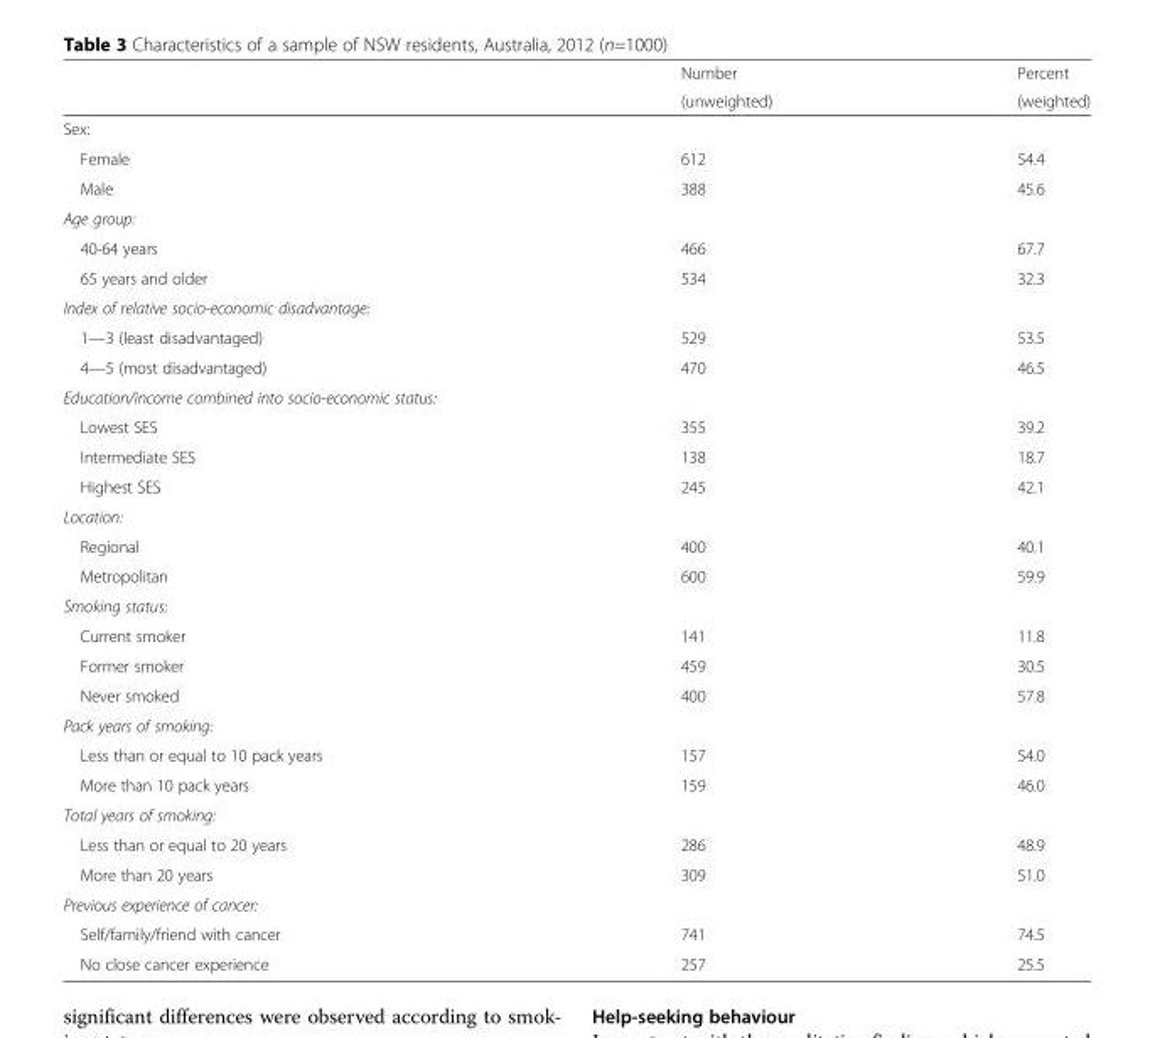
<table><thead><tr><td rowspan="2"></td><td rowspan="2">Number (unweighted)</td><td rowspan="2">Percent (weighted)</td></tr><tr></tr></thead><tbody><tr><td colspan="3">Sex:</td></tr><tr><td>Female</td><td>612</td><td>54.4</td></tr><tr><td>Male</td><td>388</td><td>45.6</td></tr><tr><td colspan="3">Age group:</td></tr><tr><td>40-64 years</td><td>466</td><td>67.7</td></tr><tr><td>65 years and older</td><td>534</td><td>32.3</td></tr><tr><td colspan="3">Index of relative socio-economic disadvantage:</td></tr><tr><td>1—3 (least disadvantaged)</td><td>529</td><td>53.5</td></tr><tr><td>4—5 (most disadvantaged)</td><td>470</td><td>46.5</td></tr><tr><td colspan="3">Education/income combined into socio-economic status:</td></tr><tr><td>Lowest SES</td><td>355</td><td>39.2</td></tr><tr><td>Intermediate SES</td><td>138</td><td>18.7</td></tr><tr><td>Highest SES</td><td>245</td><td>42.1</td></tr><tr><td colspan="3">Location:</td></tr><tr><td>Regional</td><td>400</td><td>40.1</td></tr><tr><td>Metropolitan</td><td>600</td><td>59.9</td></tr><tr><td colspan="3">Smoking status:</td></tr><tr><td>Current smoker</td><td>141</td><td>11.8</td></tr><tr><td>Former smoker</td><td>459</td><td>30.5</td></tr><tr><td>Never smoked</td><td>400</td><td>57.8</td></tr><tr><td colspan="3">Pack years of smoking:</td></tr><tr><td>Less than or equal to 10 pack years</td><td>157</td><td>54.0</td></tr><tr><td>More than 10 pack years</td><td>159</td><td>46.0</td></tr><tr><td colspan="3">Total years of smoking:</td></tr><tr><td>Less than or equal to 20 years</td><td>286</td><td>48.9</td></tr><tr><td>More than 20 years</td><td>309</td><td>51.0</td></tr><tr><td colspan="3">Previous experience of cancer:</td></tr><tr><td>Self/family/friend with cancer</td><td>741</td><td>74.5</td></tr><tr><td>No close cancer experience</td><td>257</td><td>25.5</td></tr></tbody></table>